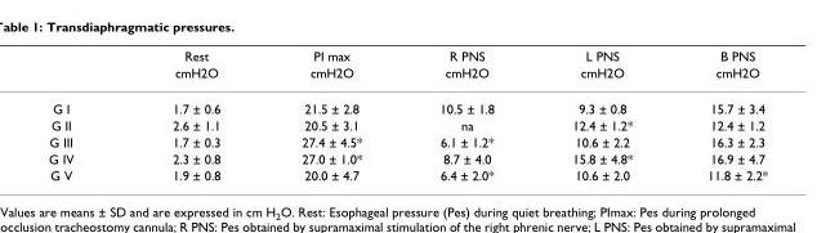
<table><thead><tr><td rowspan="2"></td><td rowspan="2">Rest cmH2O</td><td rowspan="2">PI max cmH2O</td><td rowspan="2">R PNS cmH2O</td><td rowspan="2">L PNS cmH2O</td><td rowspan="2">B PNS cmH2O</td></tr><tr></tr></thead><tbody><tr><td>G I</td><td>1.7 ± 0.6</td><td>21.5 ± 2.8</td><td>10.5 ± 1.8</td><td>9.3 ± 0.8</td><td>15.7 ± 3.4</td></tr><tr><td>G II</td><td>2.6 ± 1.1</td><td>20.5 ± 3.1</td><td>na</td><td>12.4 ± 1.2*</td><td>12.4 ± 1.2</td></tr><tr><td>G III</td><td>1.7 ± 0.3</td><td>27.4 ± 4.5*</td><td>6.1 ± 1.2*</td><td>10.6 ± 2.2</td><td>16.3 ± 2.3</td></tr><tr><td>G IV</td><td>2.3 ± 0.8</td><td>27.0 ± 1.0*</td><td>8.7 ± 4.0</td><td>15.8 ± 4.8*</td><td>16.9 ± 4.7</td></tr><tr><td>G V</td><td>1.9 ± 0.8</td><td>20.0 ± 4.7</td><td>6.4 ± 2.0*</td><td>10.6 ± 2.0</td><td>11.8 ± 2.2*</td></tr></tbody></table>